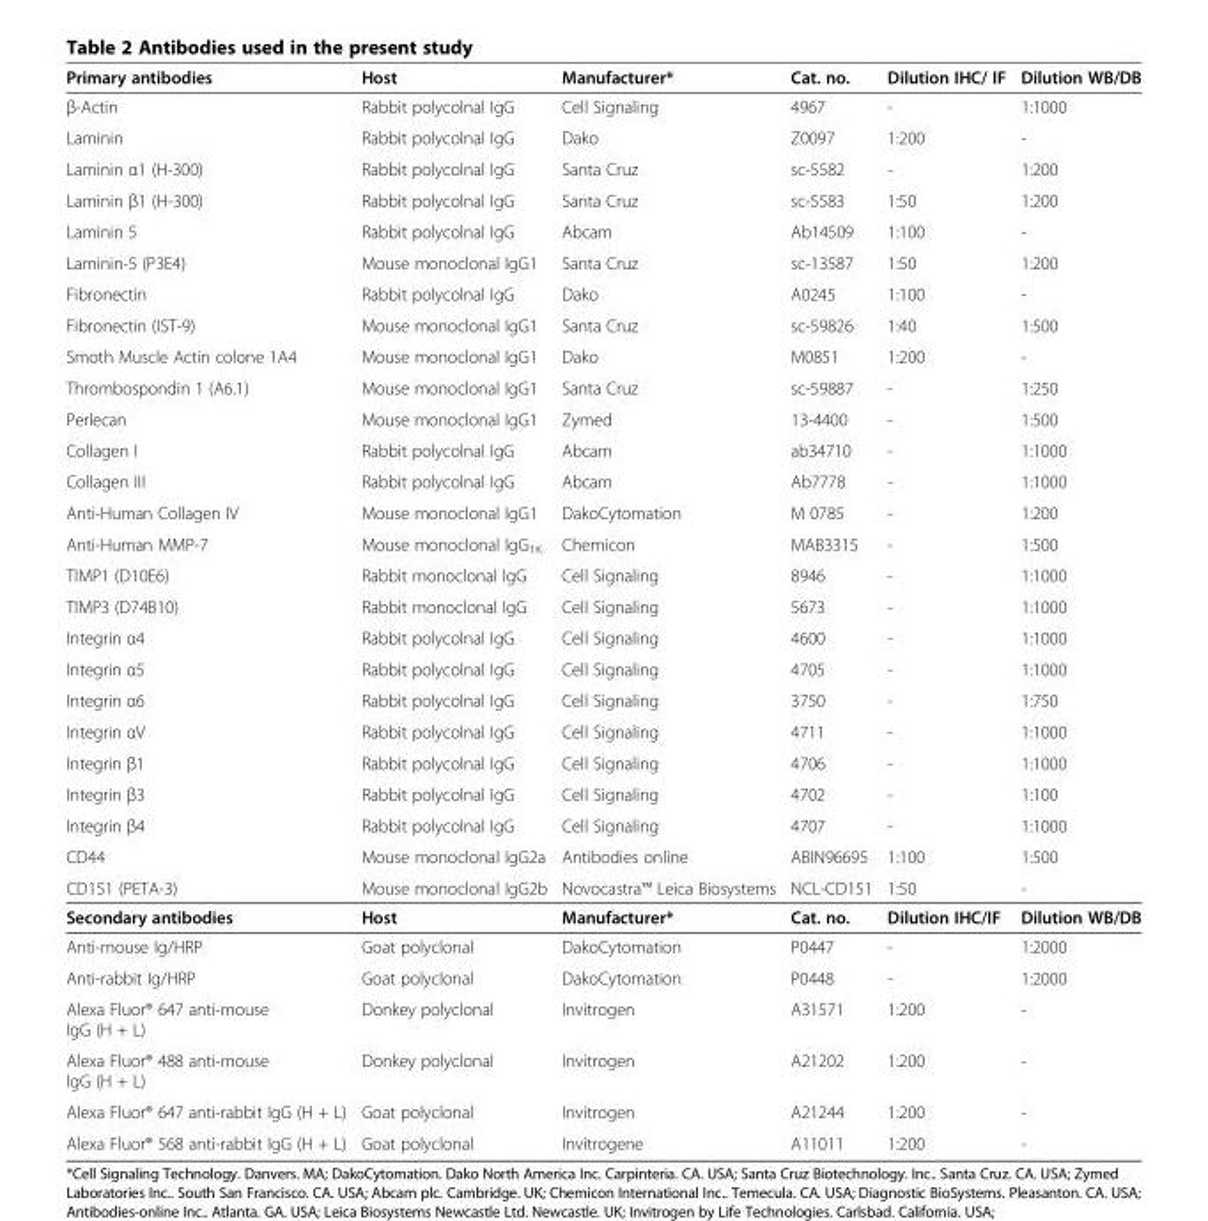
<table><tbody><tr><td>Primary antibodies</td><td>Host</td><td>Manufacturer*</td><td>Cat. no.</td><td>Dilution IHC/ IF</td><td>Dilution WB/DB</td></tr><tr><td>β-Actin</td><td>Rabbit polycolnal IgG</td><td>Cell Signaling</td><td>4967</td><td>-</td><td>1:1000</td></tr><tr><td>Laminin</td><td>Rabbit polycolnal IgG</td><td>Dako</td><td>Z0097</td><td>1:200</td><td>-</td></tr><tr><td>Laminin α1 (H-300)</td><td>Rabbit polycolnal IgG</td><td>Santa Cruz</td><td>sc-5582</td><td>-</td><td>1:200</td></tr><tr><td>Laminin β1 (H-300)</td><td>Rabbit polycolnal IgG</td><td>Santa Cruz</td><td>sc-5583</td><td>1:50</td><td>1:200</td></tr><tr><td>Laminin 5</td><td>Rabbit polycolnal IgG</td><td>Abcam</td><td>Ab14509</td><td>1:100</td><td>-</td></tr><tr><td>Laminin-5 (P3E4)</td><td>Mouse monoclonal IgG1</td><td>Santa Cruz</td><td>sc-13587</td><td>1:50</td><td>1:200</td></tr><tr><td>Fibronectin</td><td>Rabbit polycolnal IgG</td><td>Dako</td><td>A0245</td><td>1:100</td><td>-</td></tr><tr><td>Fibronectin (IST-9)</td><td>Mouse monoclonal IgG1</td><td>Santa Cruz</td><td>sc-59826</td><td>1:40</td><td>1:500</td></tr><tr><td>Smoth Muscle Actin colone 1A4</td><td>Mouse monoclonal IgG1</td><td>Dako</td><td>M0851</td><td>1:200</td><td>-</td></tr><tr><td>Thrombospondin 1 (A6.1)</td><td>Mouse monoclonal IgG1</td><td>Santa Cruz</td><td>sc-59887</td><td>-</td><td>1:250</td></tr><tr><td>Perlecan</td><td>Mouse monoclonal IgG1</td><td>Zymed</td><td>13-4400</td><td>-</td><td>1:500</td></tr><tr><td>Collagen I</td><td>Rabbit polycolnal IgG</td><td>Abcam</td><td>ab34710</td><td>-</td><td>1:1000</td></tr><tr><td>Collagen III</td><td>Rabbit polycolnal IgG</td><td>Abcam</td><td>Ab7778</td><td>-</td><td>1:1000</td></tr><tr><td>Anti-Human Collagen IV</td><td>Mouse monoclonal IgG1</td><td>DakoCytomation</td><td>M 0785</td><td>-</td><td>1:200</td></tr><tr><td>Anti-Human MMP-7</td><td>Mouse monoclonal IgG<sub>1K</sub></td><td>Chemicon</td><td>MAB3315</td><td>-</td><td>1:500</td></tr><tr><td>TIMP1 (D10E6)</td><td>Rabbit monoclonal IgG</td><td>Cell Signaling</td><td>8946</td><td>-</td><td>1:1000</td></tr><tr><td>TIMP3 (D74B10)</td><td>Rabbit monoclonal IgG</td><td>Cell Signaling</td><td>5673</td><td>-</td><td>1:1000</td></tr><tr><td>Integrin α4</td><td>Rabbit polycolnal IgG</td><td>Cell Signaling</td><td>4600</td><td>-</td><td>1:1000</td></tr><tr><td>Integrin α5</td><td>Rabbit polycolnal IgG</td><td>Cell Signaling</td><td>4705</td><td>-</td><td>1:1000</td></tr><tr><td>Integrin α6</td><td>Rabbit polycolnal IgG</td><td>Cell Signaling</td><td>3750</td><td>-</td><td>1:750</td></tr><tr><td>Integrin αV</td><td>Rabbit polycolnal IgG</td><td>Cell Signaling</td><td>4711</td><td>-</td><td>1:1000</td></tr><tr><td>Integrin β1</td><td>Rabbit polycolnal IgG</td><td>Cell Signaling</td><td>4706</td><td>-</td><td>1:1000</td></tr><tr><td>Integrin β3</td><td>Rabbit polycolnal IgG</td><td>Cell Signaling</td><td>4702</td><td>-</td><td>1:100</td></tr><tr><td>Integrin β4</td><td>Rabbit polycolnal IgG</td><td>Cell Signaling</td><td>4707</td><td>-</td><td>1:1000</td></tr><tr><td>CD44</td><td>Mouse monoclonal IgG2a</td><td>Antibodies online</td><td>ABIN96695</td><td>1:100</td><td>1:500</td></tr><tr><td>CD151 (PETA-3)</td><td>Mouse monoclonal IgG2b</td><td>Novocastra™ Leica Biosystems</td><td>NCL-CD151</td><td>1:50</td><td>-</td></tr><tr><td>Secondary antibodies</td><td>Host</td><td>Manufacturer*</td><td>Cat. no.</td><td>Dilution IHC/IF</td><td>Dilution WB/DB</td></tr><tr><td>Anti-mouse Ig/HRP</td><td>Goat polyclonal</td><td>DakoCytomation</td><td>P0447</td><td>-</td><td>1:2000</td></tr><tr><td>Anti-rabbit Ig/HRP</td><td>Goat polyclonal</td><td>DakoCytomation</td><td>P0448</td><td>-</td><td>1:2000</td></tr><tr><td>Alexa Fluor® 647 anti-mouse IgG (H + L)</td><td>Donkey polyclonal</td><td>Invitrogen</td><td>A31571</td><td>1:200</td><td>-</td></tr><tr><td>Alexa Fluor® 488 anti-mouse IgG (H + L)</td><td>Donkey polyclonal</td><td>Invitrogen</td><td>A21202</td><td>1:200</td><td>-</td></tr><tr><td>Alexa Fluor® 647 anti-rabbit IgG (H + L)</td><td>Goat polyclonal</td><td>Invitrogen</td><td>A21244</td><td>1:200</td><td>-</td></tr><tr><td>Alexa Fluor® 568 anti-rabbit IgG (H + L)</td><td>Goat polyclonal</td><td>Invitrogene</td><td>A11011</td><td>1:200</td><td>-</td></tr></tbody></table>